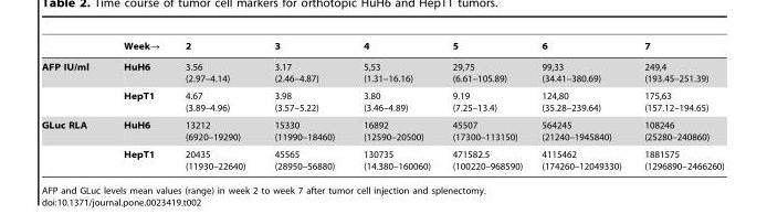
<table><thead><tr><td></td><td>Week→</td><td>2</td><td>3</td><td>4</td><td>5</td><td>6</td><td>7</td></tr></thead><tbody><tr><td rowspan="2">AFP IU/ml</td><td>HuH6</td><td>3.56 (2.97–4.14)</td><td>3.17 (2.46–4.87)</td><td>5,53 (1.31–16.16)</td><td>29,75 (6.61–105.89)</td><td>99,33 (34.41–380.69)</td><td>249,4 (193.45–251.39)</td></tr><tr><td>HepT1</td><td>4.67 (3.89–4.96)</td><td>3.98 (3.57–5.22)</td><td>3.80 (3.46–4.89)</td><td>9.19 (7.25–13.4)</td><td>124,80 (35.28–239.64)</td><td>175,63 (157.12–194.65)</td></tr><tr><td rowspan="2">GLuc RLA</td><td>HuH6</td><td>13212 (6920–19290)</td><td>15330 (11990–18460)</td><td>16892 (12590–20500)</td><td>45507 (17300–113150)</td><td>564245 (21240–1945840)</td><td>108246 (25280–240860)</td></tr><tr><td>HepT1</td><td>20435 (11930–22640)</td><td>45565 (28950–56880)</td><td>130735 (14.380–160060)</td><td>471582.5 (100220–968590)</td><td>4115462 (174260–12049330)</td><td>1881575 (1296890–2466260)</td></tr></tbody></table>